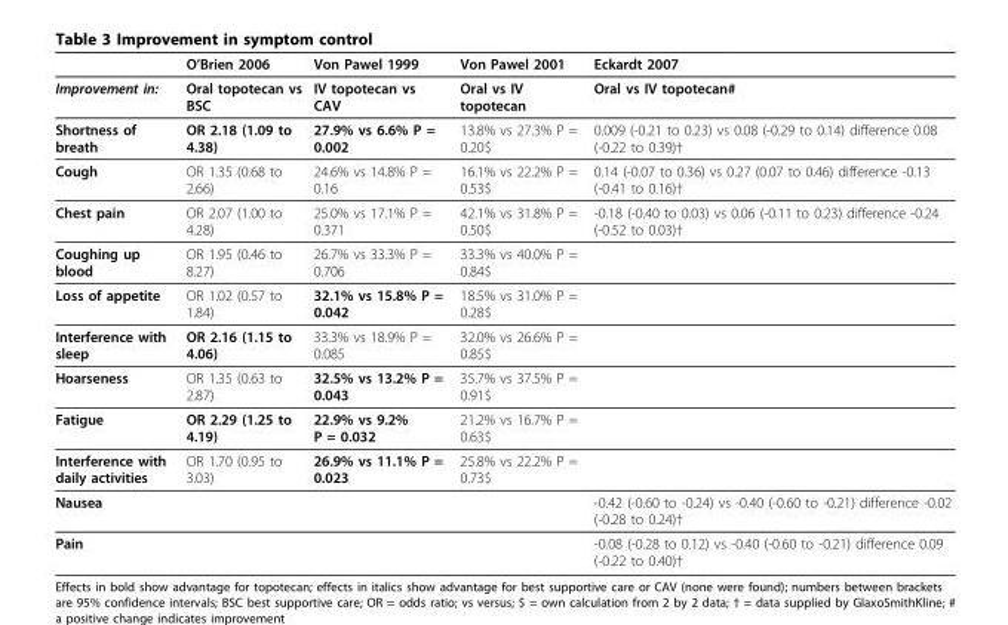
<table><thead><tr><td></td><td>O’Brien 2006</td><td>Von Pawel 1999</td><td>Von Pawel 2001</td><td>Eckardt 2007</td></tr></thead><tbody><tr><td>Improvement in:</td><td>Oral topotecan vs BSC</td><td>IV topotecan vs CAV</td><td>Oral vs IV topotecan</td><td>Oral vs IV topotecan#</td></tr><tr><td>Shortness of breath</td><td>OR 2.18 (1.09 to 4.38)</td><td>27.9% vs 6.6% P = 0.002</td><td>13.8% vs 27.3% P = 0.20$</td><td>0.009 (-0.21 to 0.23) vs 0.08 (-0.29 to 0.14) difference 0.08 (-0.22 to 0.39)†</td></tr><tr><td>Cough</td><td>OR 1.35 (0.68 to 2.66)</td><td>24.6% vs 14.8% P = 0.16</td><td>16.1% vs 22.2% P = 0.53$</td><td>0.14 (-0.07 to 0.36) vs 0.27 (0.07 to 0.46) difference -0.13 (-0.41 to 0.16)†</td></tr><tr><td>Chest pain</td><td>OR 2.07 (1.00 to 4.28)</td><td>25.0% vs 17.1% P = 0.371</td><td>42.1% vs 31.8% P = 0.50$</td><td>-0.18 (-0.40 to 0.03) vs 0.06 (-0.11 to 0.23) difference -0.24 (-0.52 to 0.03)†</td></tr><tr><td>Coughing up blood</td><td>OR 1.95 (0.46 to 8.27)</td><td>26.7% vs 33.3% P = 0.706</td><td>33.3% vs 40.0% P = 0.84$</td><td></td></tr><tr><td>Loss of appetite</td><td>OR 1.02 (0.57 to 1.84)</td><td>32.1% vs 15.8% P = 0.042</td><td>18.5% vs 31.0% P = 0.28$</td><td></td></tr><tr><td>Interference with sleep</td><td>OR 2.16 (1.15 to 4.06)</td><td>33.3% vs 18.9% P = 0.085</td><td>32.0% vs 26.6% P = 0.85$</td><td></td></tr><tr><td>Hoarseness</td><td>OR 1.35 (0.63 to 2.87)</td><td>32.5% vs 13.2% P = 0.043</td><td>35.7% vs 37.5% P = 0.91$</td><td></td></tr><tr><td>Fatigue</td><td>OR 2.29 (1.25 to 4.19)</td><td>22.9% vs 9.2% P = 0.032</td><td>21.2% vs 16.7% P = 0.63$</td><td></td></tr><tr><td>Interference with daily activities</td><td>OR 1.70 (0.95 to 3.03)</td><td>26.9% vs 11.1% P = 0.023</td><td>25.8% vs 22.2% P = 0.73$</td><td></td></tr><tr><td>Nausea</td><td></td><td></td><td></td><td>-0.42 (-0.60 to -0.24) vs -0.40 (-0.60 to -0.21) difference -0.02 (-0.28 to 0.24)†</td></tr><tr><td>Pain</td><td></td><td></td><td></td><td>-0.08 (-0.28 to 0.12) vs -0.40 (-0.60 to -0.21) difference 0.09 (-0.22 to 0.40)†</td></tr></tbody></table>